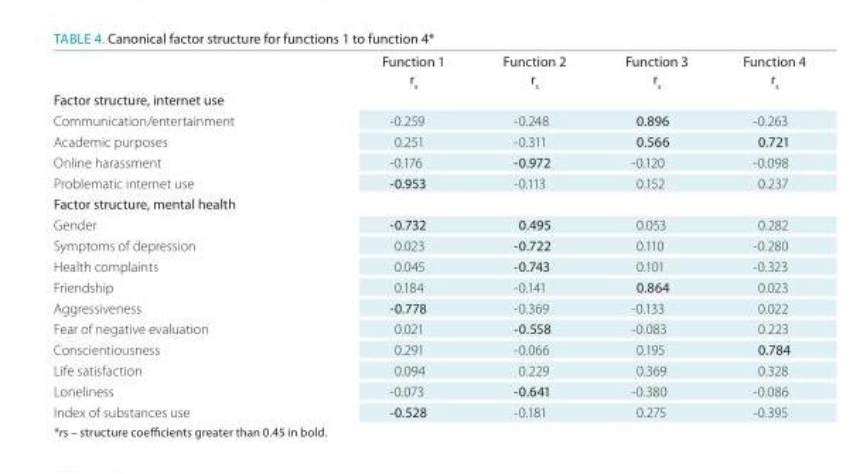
<table><thead><tr><td></td><td>Function 1 r<sub>s</sub></td><td>Function 2 r<sub>s</sub></td><td>Function 3 r<sub>s</sub></td><td>Function 4 r<sub>s</sub></td></tr></thead><tbody><tr><td colspan="5">Factor structure, internet use</td></tr><tr><td>Communication/entertainment</td><td>-0.259</td><td>-0.248</td><td>0.896</td><td>-0.263</td></tr><tr><td>Academic purposes</td><td>0.251</td><td>-0.311</td><td>0.566</td><td>0.721</td></tr><tr><td>Online harassment</td><td>-0.176</td><td>-0.972</td><td>-0.120</td><td>-0.098</td></tr><tr><td>Problematic internet use</td><td>-0.953</td><td>-0.113</td><td>0.152</td><td>0.237</td></tr><tr><td colspan="5">Factor structure, mental health</td></tr><tr><td>Gender</td><td>-0.732</td><td>0.495</td><td>0.053</td><td>0.282</td></tr><tr><td>Symptoms of depression</td><td>0.023</td><td>-0.722</td><td>0.110</td><td>-0.280</td></tr><tr><td>Health complaints</td><td>0.045</td><td>-0.743</td><td>0.101</td><td>-0.323</td></tr><tr><td>Friendship</td><td>0.184</td><td>-0.141</td><td>0.864</td><td>0.023</td></tr><tr><td>Aggressiveness</td><td>-0.778</td><td>-0.369</td><td>-0.133</td><td>0.022</td></tr><tr><td>Fear of negative evaluation</td><td>0.021</td><td>-0.558</td><td>-0.083</td><td>0.223</td></tr><tr><td>Conscientiousness</td><td>0.291</td><td>-0.066</td><td>0.195</td><td>0.784</td></tr><tr><td>Life satisfaction</td><td>0.094</td><td>0.229</td><td>0.369</td><td>0.328</td></tr><tr><td>Loneliness</td><td>-0.073</td><td>-0.641</td><td>-0.380</td><td>-0.086</td></tr><tr><td>Index of substances use</td><td>-0.528</td><td>-0.181</td><td>0.275</td><td>-0.395</td></tr></tbody></table>